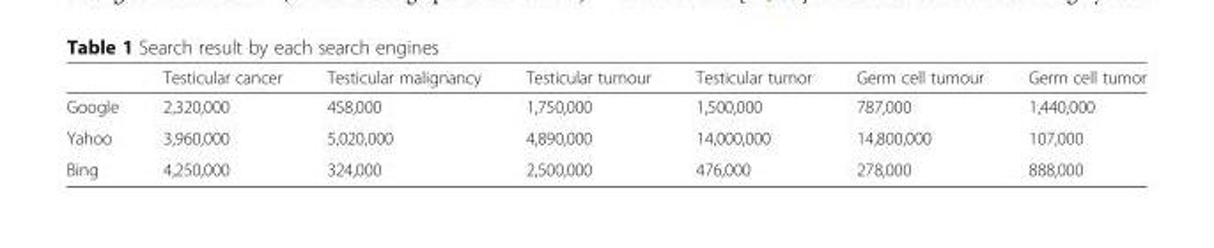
<table><thead><tr><td></td><td>Testicular cancer</td><td>Testicular malignancy</td><td>Testicular tumour</td><td>Testicular tumor</td><td>Germ cell tumour</td><td>Germ cell tumor</td></tr></thead><tbody><tr><td>Google</td><td>2,320,000</td><td>458,000</td><td>1,750,000</td><td>1,500,000</td><td>787,000</td><td>1,440,000</td></tr><tr><td>Yahoo</td><td>3,960,000</td><td>5,020,000</td><td>4,890,000</td><td>14,000,000</td><td>14,800,000</td><td>107,000</td></tr><tr><td>Bing</td><td>4,250,000</td><td>324,000</td><td>2,500,000</td><td>476,000</td><td>278,000</td><td>888,000</td></tr></tbody></table>